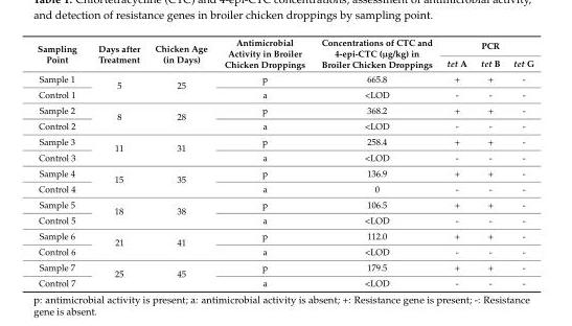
<table><thead><tr><td rowspan="2">Sampling Point</td><td rowspan="2">Days after Treatment</td><td rowspan="2">Chicken Age (in Days)</td><td rowspan="2">Antimicrobial Activity in Broiler Chicken Droppings</td><td rowspan="2">Concentrations of CTC and 4-epi-CTC (µg/kg) in Broiler Chicken Droppings</td><td colspan="3">PCR</td></tr><tr><td>tet A</td><td>tet B</td><td>tet G</td></tr></thead><tbody><tr><td>Sample 1</td><td rowspan="2">5</td><td rowspan="2">25</td><td>p</td><td>665.8</td><td>+</td><td>+</td><td>-</td></tr><tr><td>Control 1</td><td>a</td><td>&lt;LOD</td><td>-</td><td>-</td><td>-</td></tr><tr><td>Sample 2</td><td rowspan="2">8</td><td rowspan="2">28</td><td>p</td><td>368.2</td><td>+</td><td>+</td><td>-</td></tr><tr><td>Control 2</td><td>a</td><td>&lt;LOD</td><td>-</td><td>-</td><td>-</td></tr><tr><td>Sample 3</td><td rowspan="2">11</td><td rowspan="2">31</td><td>p</td><td>258.4</td><td>+</td><td>+</td><td>-</td></tr><tr><td>Control 3</td><td>a</td><td>&lt;LOD</td><td>-</td><td>-</td><td>-</td></tr><tr><td>Sample 4</td><td rowspan="2">15</td><td rowspan="2">35</td><td>p</td><td>136.9</td><td>+</td><td>+</td><td>-</td></tr><tr><td>Control 4</td><td>a</td><td>0</td><td>-</td><td>-</td><td>-</td></tr><tr><td>Sample 5</td><td rowspan="2">18</td><td rowspan="2">38</td><td>p</td><td>106.5</td><td>+</td><td>+</td><td>-</td></tr><tr><td>Control 5</td><td>a</td><td>&lt;LOD</td><td>-</td><td>-</td><td>-</td></tr><tr><td>Sample 6</td><td rowspan="2">21</td><td rowspan="2">41</td><td>p</td><td>112.0</td><td>+</td><td>+</td><td>-</td></tr><tr><td>Control 6</td><td>a</td><td>&lt;LOD</td><td>-</td><td>-</td><td>-</td></tr><tr><td>Sample 7</td><td rowspan="2">25</td><td rowspan="2">45</td><td>p</td><td>179.5</td><td>+</td><td>+</td><td>-</td></tr><tr><td>Control 7</td><td>a</td><td>&lt;LOD</td><td>-</td><td>-</td><td>-</td></tr></tbody></table>